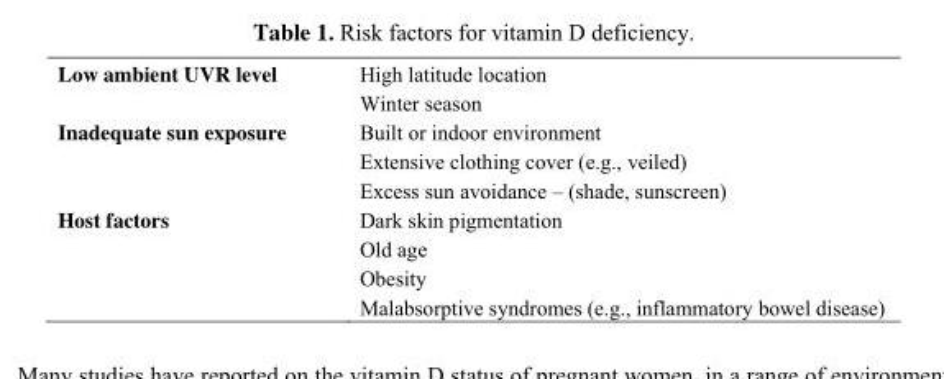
<table><tbody><tr><td rowspan="2">Low ambient UVR level</td><td>High latitude location</td></tr><tr><td>Winter season</td></tr><tr><td rowspan="3">Inadequate sun exposure</td><td>Built or indoor environment</td></tr><tr><td>Extensive clothing cover (e.g., veiled)</td></tr><tr><td>Excess sun avoidance – (shade, sunscreen)</td></tr><tr><td rowspan="4">Host factors</td><td>Dark skin pigmentation</td></tr><tr><td>Old age</td></tr><tr><td>Obesity</td></tr><tr><td>Malabsorptive syndromes (e.g., inflammatory bowel disease)</td></tr></tbody></table>